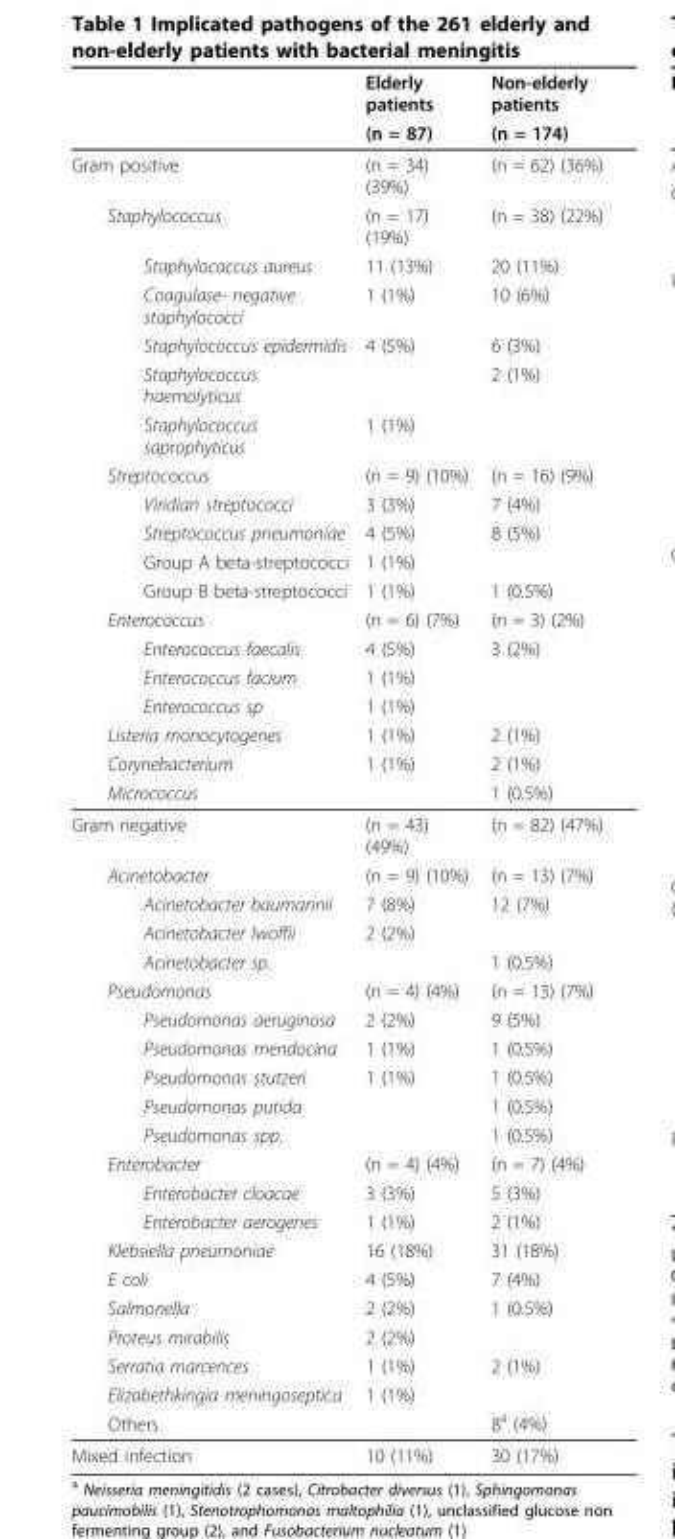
<table><thead><tr><td rowspan="2"></td><td rowspan="2">Elderly patients (n = 87)</td><td rowspan="2">Non-elderly patients (n = 174)</td></tr><tr></tr></thead><tbody><tr><td>Gram positive</td><td>(n = 34) (39%)</td><td>(n = 62) (36%)</td></tr><tr><td>Staphylococcus</td><td>(n = 17) (19%)</td><td>(n = 38) (22%)</td></tr><tr><td>Staphylococcus aureus</td><td>11 (13%)</td><td>20 (11%)</td></tr><tr><td>Coagulase- negative staphylococci</td><td>1 (1%)</td><td>10 (6%)</td></tr><tr><td>Staphylococcus epidermidis</td><td>4 (5%)</td><td>6 (3%)</td></tr><tr><td>Staphylococcus haemolyticus</td><td></td><td>2 (1%)</td></tr><tr><td>Staphylococcus saprophyticus</td><td>1 (1%)</td><td></td></tr><tr><td>Streptococcus</td><td>(n = 9) (10%)</td><td>(n = 16) (9%)</td></tr><tr><td>Viridian streptococci</td><td>3 (3%)</td><td>7 (4%)</td></tr><tr><td>Streptococcus pneumoniae</td><td>4 (5%)</td><td>8 (5%)</td></tr><tr><td>Group A beta-streptococci</td><td>1 (1%)</td><td></td></tr><tr><td>Group B beta-streptococci</td><td>1 (1%)</td><td>1 (0.5%)</td></tr><tr><td>Enterococcus</td><td>(n = 6) (7%)</td><td>(n = 3) (2%)</td></tr><tr><td>Enterococcus faecalis</td><td>4 (5%)</td><td>3 (2%)</td></tr><tr><td>Enterococcus facium</td><td>1 (1%)</td><td></td></tr><tr><td>Enterococcus sp</td><td>1 (1%)</td><td></td></tr><tr><td>Listeria monocytogenes</td><td>1 (1%)</td><td>2 (1%)</td></tr><tr><td>Corynebacterium</td><td>1 (1%)</td><td>2 (1%)</td></tr><tr><td>Micrococcus</td><td></td><td>1 (0.5%)</td></tr><tr><td>Gram negative</td><td>(n = 43) (49%)</td><td>(n = 82) (47%)</td></tr><tr><td>Acinetobacter</td><td>(n = 9) (10%)</td><td>(n = 13) (7%)</td></tr><tr><td>Acinetobacter baumannii</td><td>7 (8%)</td><td>12 (7%)</td></tr><tr><td>Acinetobacter lwoffii</td><td>2 (2%)</td><td></td></tr><tr><td>Acinetobacter sp.</td><td></td><td>1 (0.5%)</td></tr><tr><td>Pseudomonas</td><td>(n = 4) (4%)</td><td>(n = 13) (7%)</td></tr><tr><td>Pseudomonas aeruginosa</td><td>2 (2%)</td><td>9 (5%)</td></tr><tr><td>Pseudomonas mendocina</td><td>1 (1%)</td><td>1 (0.5%)</td></tr><tr><td>Pseudomonas stutzeri</td><td>1 (1%)</td><td>1 (0.5%)</td></tr><tr><td>Pseudomonas putida</td><td></td><td>1 (0.5%)</td></tr><tr><td>Pseudomonas spp.</td><td></td><td>1 (0.5%)</td></tr><tr><td>Enterobacter</td><td>(n = 4) (4%)</td><td>(n = 7) (4%)</td></tr><tr><td>Enterobacter cloacae</td><td>3 (3%)</td><td>5 (3%)</td></tr><tr><td>Enterobacter aerogenes</td><td>1 (1%)</td><td>2 (1%)</td></tr><tr><td>Klebsiella pneumoniae</td><td>16 (18%)</td><td>31 (18%)</td></tr><tr><td>E coli</td><td>4 (5%)</td><td>7 (4%)</td></tr><tr><td>Salmonella</td><td>2 (2%)</td><td>1 (0.5%)</td></tr><tr><td>Proteus mirabilis</td><td>2 (2%)</td><td></td></tr><tr><td>Serratia marcences</td><td>1 (1%)</td><td>2 (1%)</td></tr><tr><td>Elizabethkingia meningoseptica</td><td>1 (1%)</td><td></td></tr><tr><td>Others</td><td></td><td>8<sup>a</sup> (4%)</td></tr><tr><td>Mixed infection</td><td>10 (11%)</td><td>30 (17%)</td></tr></tbody></table>